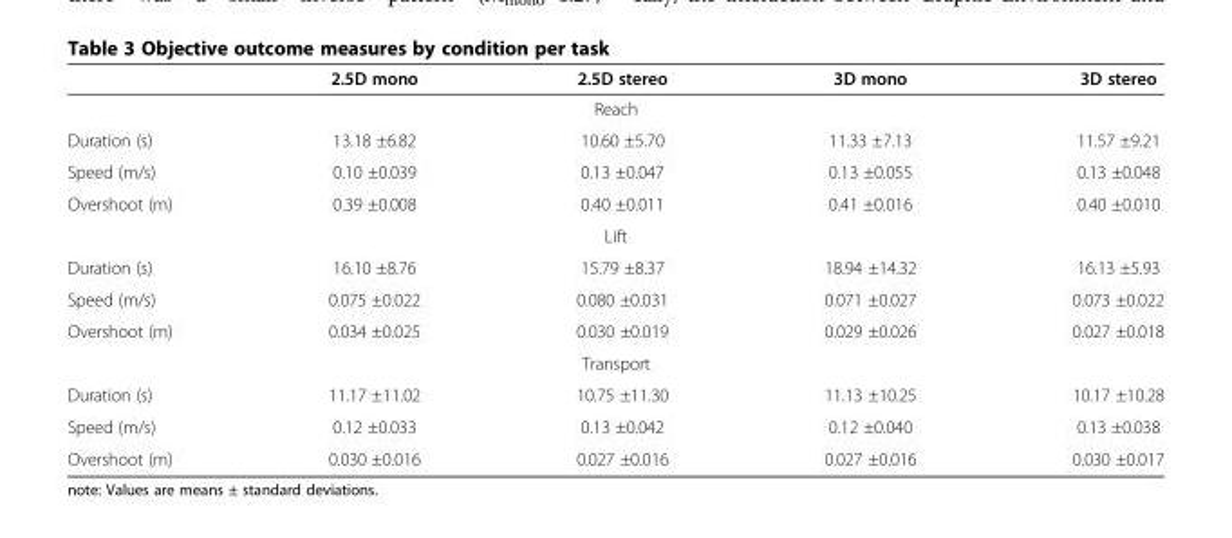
<table><thead><tr><td></td><td>2.5D mono</td><td>2.5D stereo</td><td>3D mono</td><td>3D stereo</td></tr></thead><tbody><tr><td></td><td></td><td>Reach</td><td></td><td></td></tr><tr><td>Duration (s)</td><td>13.18 ±6.82</td><td>10.60 ±5.70</td><td>11.33 ±7.13</td><td>11.57 ±9.21</td></tr><tr><td>Speed (m/s)</td><td>0.10 ±0.039</td><td>0.13 ±0.047</td><td>0.13 ±0.055</td><td>0.13 ±0.048</td></tr><tr><td rowspan="2">Overshoot (m)</td><td>0.39 ±0.008</td><td>0.40 ±0.011</td><td>0.41 ±0.016</td><td>0.40 ±0.010</td></tr><tr><td></td><td>Lift</td><td></td><td></td></tr><tr><td>Duration (s)</td><td>16.10 ±8.76</td><td>15.79 ±8.37</td><td>18.94 ±14.32</td><td>16.13 ±5.93</td></tr><tr><td>Speed (m/s)</td><td>0.075 ±0.022</td><td>0.080 ±0.031</td><td>0.071 ±0.027</td><td>0.073 ±0.022</td></tr><tr><td rowspan="2">Overshoot (m)</td><td>0.034 ±0.025</td><td>0.030 ±0.019</td><td>0.029 ±0.026</td><td>0.027 ±0.018</td></tr><tr><td></td><td>Transport</td><td></td><td></td></tr><tr><td>Duration (s)</td><td>11.17 ±11.02</td><td>10.75 ±11.30</td><td>11.13 ±10.25</td><td>10.17 ±10.28</td></tr><tr><td>Speed (m/s)</td><td>0.12 ±0.033</td><td>0.13 ±0.042</td><td>0.12 ±0.040</td><td>0.13 ±0.038</td></tr><tr><td>Overshoot (m)</td><td>0.030 ±0.016</td><td>0.027 ±0.016</td><td>0.027 ±0.016</td><td>0.030 ±0.017</td></tr></tbody></table>